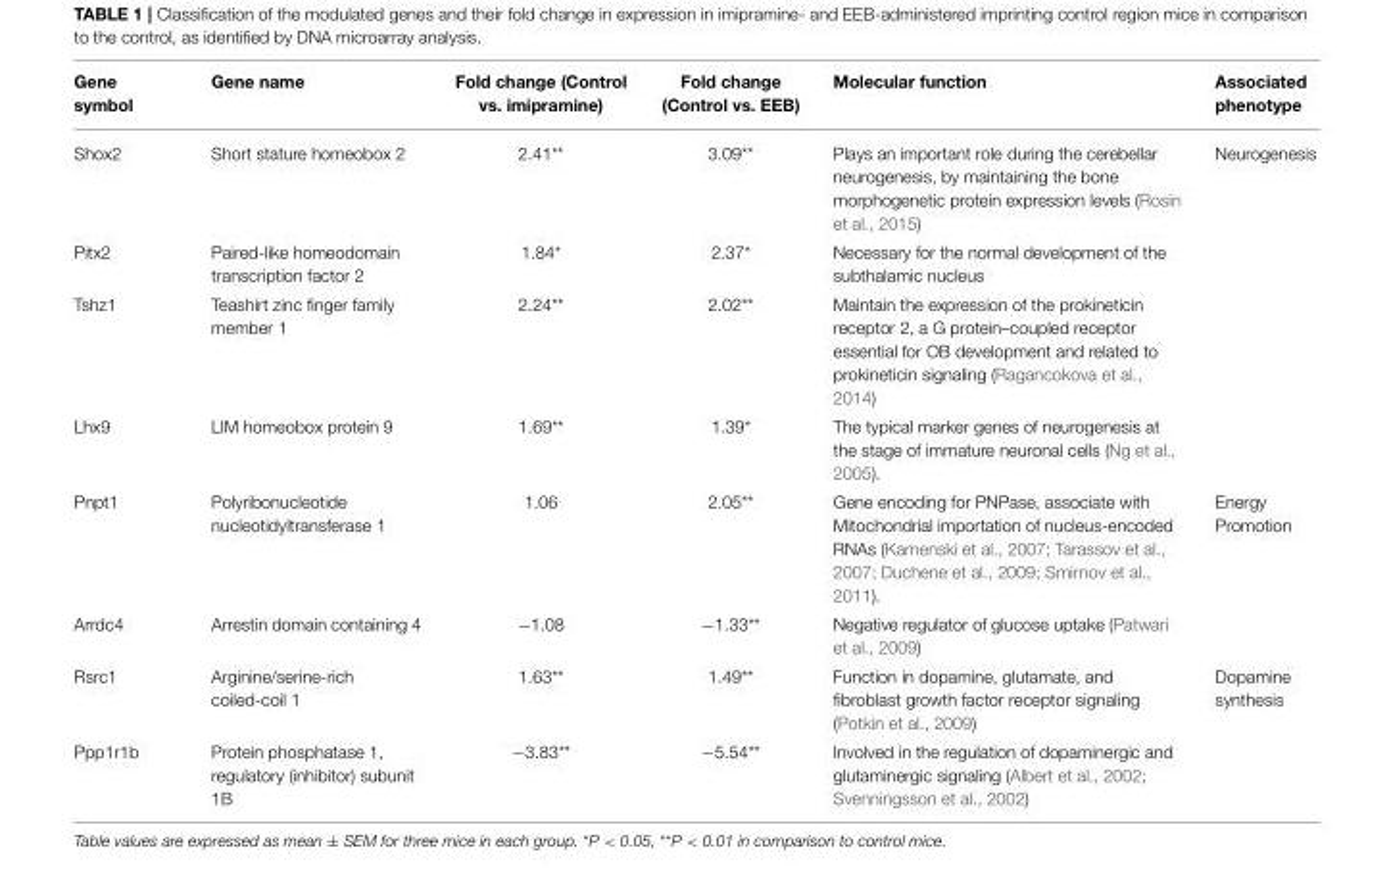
<table><thead><tr><td>Gene symbol</td><td>Gene name</td><td>Fold change (Control vs. imipramine)</td><td>Fold change (Control vs. EEB)</td><td>Molecular function</td><td>Associated phenotype</td></tr></thead><tbody><tr><td>Shox2</td><td>Short stature homeobox 2</td><td>2.41**</td><td>3.09**</td><td>Plays an important role during the cerebellar neurogenesis, by maintaining the bone morphogenetic protein expression levels (Rosin et al., 2015)</td><td>Neurogenesis</td></tr><tr><td>Pitx2</td><td>Paired-like homeodomain transcription factor 2</td><td>1.84*</td><td>2.37*</td><td>Necessary for the normal development of the subthalamic nucleus</td><td></td></tr><tr><td>Tshz1</td><td>Teashirt zinc finger family member 1</td><td>2.24**</td><td>2.02**</td><td>Maintain the expression of the prokineticin receptor 2, a G protein–coupled receptor essential for OB development and related to prokineticin signaling (Ragancokova et al., 2014)</td><td></td></tr><tr><td>Lhx9</td><td>LIM homeobox protein 9</td><td>1.69**</td><td>1.39*</td><td>The typical marker genes of neurogenesis at the stage of immature neuronal cells (Ng et al., 2005).</td><td></td></tr><tr><td>Pnpt1</td><td>Polyribonucleotide nucleotidyltransferase 1</td><td>1.06</td><td>2.05**</td><td>Gene encoding for PNPase, associate with Mitochondrial importation of nucleus-encoded RNAs (Kamenski et al., 2007; Tarassov et al., 2007; Duchene et al., 2009; Smirnov et al., 2011).</td><td>Energy Promotion</td></tr><tr><td>Arrdc4</td><td>Arrestin domain containing 4</td><td>−1.08</td><td>−1.33**</td><td>Negative regulator of glucose uptake (Patwari et al., 2009)</td><td></td></tr><tr><td>Rsrc1</td><td>Arginine/serine-rich coiled-coil 1</td><td>1.63**</td><td>1.49**</td><td>Function in dopamine, glutamate, and fibroblast growth factor receptor signaling (Potkin et al., 2009)</td><td>Dopamine synthesis</td></tr><tr><td>Ppp1r1b</td><td>Protein phosphatase 1, regulatory (inhibitor) subunit 1B</td><td>−3.83**</td><td>−5.54**</td><td>Involved in the regulation of dopaminergic and glutaminergic signaling (Albert et al., 2002; Svenningsson et al., 2002)</td><td></td></tr></tbody></table>